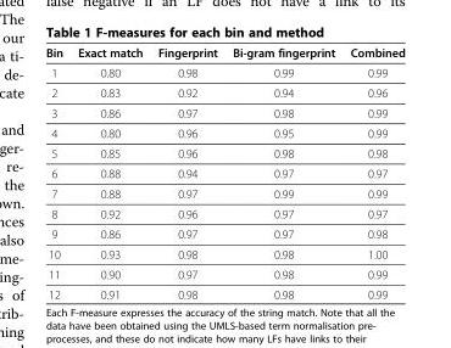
<table><thead><tr><td>Bin</td><td>Exact match</td><td>Fingerprint</td><td>Bi-gram fingerprint</td><td>Combined</td></tr></thead><tbody><tr><td>1</td><td>0.80</td><td>0.98</td><td>0.99</td><td>0.99</td></tr><tr><td>2</td><td>0.83</td><td>0.92</td><td>0.94</td><td>0.96</td></tr><tr><td>3</td><td>0.86</td><td>0.97</td><td>0.98</td><td>0.99</td></tr><tr><td>4</td><td>0.80</td><td>0.96</td><td>0.95</td><td>0.99</td></tr><tr><td>5</td><td>0.85</td><td>0.96</td><td>0.98</td><td>0.98</td></tr><tr><td>6</td><td>0.88</td><td>0.94</td><td>0.97</td><td>0.97</td></tr><tr><td>7</td><td>0.88</td><td>0.97</td><td>0.99</td><td>0.99</td></tr><tr><td>8</td><td>0.92</td><td>0.96</td><td>0.97</td><td>0.97</td></tr><tr><td>9</td><td>0.86</td><td>0.97</td><td>0.97</td><td>0.98</td></tr><tr><td>10</td><td>0.93</td><td>0.98</td><td>0.98</td><td>1.00</td></tr><tr><td>11</td><td>0.90</td><td>0.97</td><td>0.98</td><td>0.99</td></tr><tr><td>12</td><td>0.91</td><td>0.98</td><td>0.98</td><td>0.99</td></tr></tbody></table>